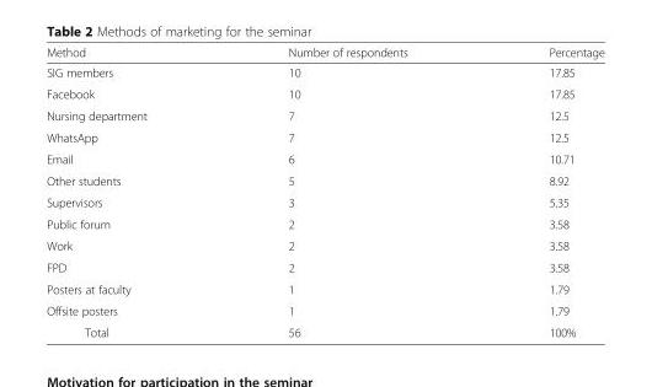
<table><thead><tr><td>Method</td><td>Number of respondents</td><td>Percentage</td></tr></thead><tbody><tr><td>SIG members</td><td>10</td><td>17.85</td></tr><tr><td>Facebook</td><td>10</td><td>17.85</td></tr><tr><td>Nursing department</td><td>7</td><td>12.5</td></tr><tr><td>WhatsApp</td><td>7</td><td>12.5</td></tr><tr><td>Email</td><td>6</td><td>10.71</td></tr><tr><td>Other students</td><td>5</td><td>8.92</td></tr><tr><td>Supervisors</td><td>3</td><td>5.35</td></tr><tr><td>Public forum</td><td>2</td><td>3.58</td></tr><tr><td>Work</td><td>2</td><td>3.58</td></tr><tr><td>FPD</td><td>2</td><td>3.58</td></tr><tr><td>Posters at faculty</td><td>1</td><td>1.79</td></tr><tr><td>Offsite posters</td><td>1</td><td>1.79</td></tr><tr><td>Total</td><td>56</td><td>100%</td></tr></tbody></table>